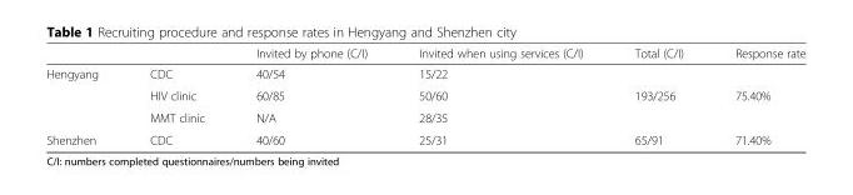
<table><thead><tr><td></td><td></td><td>Invited by phone (C/I)</td><td>Invited when using services (C/I)</td><td>Total (C/I)</td><td>Response rate</td></tr></thead><tbody><tr><td rowspan="3">Hengyang</td><td>CDC</td><td>40/54</td><td>15/22</td><td></td><td></td></tr><tr><td>HIV clinic</td><td>60/85</td><td>50/60</td><td>193/256</td><td>75.40%</td></tr><tr><td>MMT clinic</td><td>N/A</td><td>28/35</td><td></td><td></td></tr><tr><td>Shenzhen</td><td>CDC</td><td>40/60</td><td>25/31</td><td>65/91</td><td>71.40%</td></tr></tbody></table>